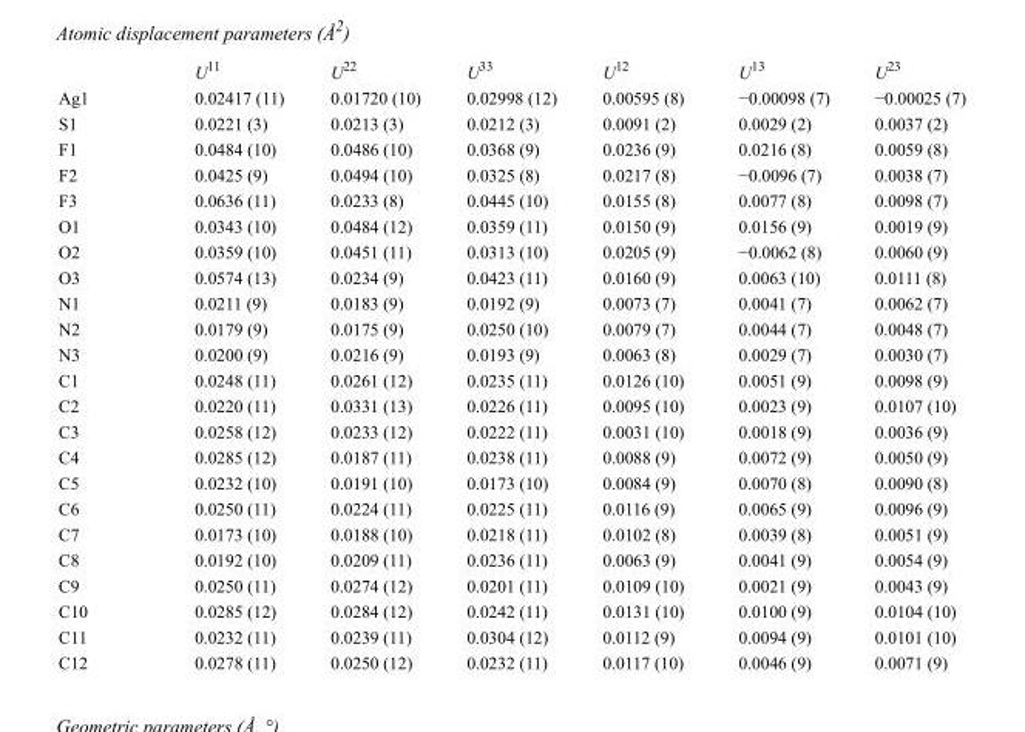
<table><thead><tr><td></td><td>U<sup>11</sup></td><td>U<sup>22</sup></td><td>U<sup>33</sup></td><td>U<sup>12</sup></td><td>U<sup>13</sup></td><td>U<sup>23</sup></td></tr></thead><tbody><tr><td>Ag1</td><td>0.02417 (11)</td><td>0.01720 (10)</td><td>0.02998 (12)</td><td>0.00595 (8)</td><td>−0.00098 (7)</td><td>−0.00025 (7)</td></tr><tr><td>S1</td><td>0.0221 (3)</td><td>0.0213 (3)</td><td>0.0212 (3)</td><td>0.0091 (2)</td><td>0.0029 (2)</td><td>0.0037 (2)</td></tr><tr><td>F1</td><td>0.0484 (10)</td><td>0.0486 (10)</td><td>0.0368 (9)</td><td>0.0236 (9)</td><td>0.0216 (8)</td><td>0.0059 (8)</td></tr><tr><td>F2</td><td>0.0425 (9)</td><td>0.0494 (10)</td><td>0.0325 (8)</td><td>0.0217 (8)</td><td>−0.0096 (7)</td><td>0.0038 (7)</td></tr><tr><td>F3</td><td>0.0636 (11)</td><td>0.0233 (8)</td><td>0.0445 (10)</td><td>0.0155 (8)</td><td>0.0077 (8)</td><td>0.0098 (7)</td></tr><tr><td>O1</td><td>0.0343 (10)</td><td>0.0484 (12)</td><td>0.0359 (11)</td><td>0.0150 (9)</td><td>0.0156 (9)</td><td>0.0019 (9)</td></tr><tr><td>O2</td><td>0.0359 (10)</td><td>0.0451 (11)</td><td>0.0313 (10)</td><td>0.0205 (9)</td><td>−0.0062 (8)</td><td>0.0060 (9)</td></tr><tr><td>O3</td><td>0.0574 (13)</td><td>0.0234 (9)</td><td>0.0423 (11)</td><td>0.0160 (9)</td><td>0.0063 (10)</td><td>0.0111 (8)</td></tr><tr><td>N1</td><td>0.0211 (9)</td><td>0.0183 (9)</td><td>0.0192 (9)</td><td>0.0073 (7)</td><td>0.0041 (7)</td><td>0.0062 (7)</td></tr><tr><td>N2</td><td>0.0179 (9)</td><td>0.0175 (9)</td><td>0.0250 (10)</td><td>0.0079 (7)</td><td>0.0044 (7)</td><td>0.0048 (7)</td></tr><tr><td>N3</td><td>0.0200 (9)</td><td>0.0216 (9)</td><td>0.0193 (9)</td><td>0.0063 (8)</td><td>0.0029 (7)</td><td>0.0030 (7)</td></tr><tr><td>C1</td><td>0.0248 (11)</td><td>0.0261 (12)</td><td>0.0235 (11)</td><td>0.0126 (10)</td><td>0.0051 (9)</td><td>0.0098 (9)</td></tr><tr><td>C2</td><td>0.0220 (11)</td><td>0.0331 (13)</td><td>0.0226 (11)</td><td>0.0095 (10)</td><td>0.0023 (9)</td><td>0.0107 (10)</td></tr><tr><td>C3</td><td>0.0258 (12)</td><td>0.0233 (12)</td><td>0.0222 (11)</td><td>0.0031 (10)</td><td>0.0018 (9)</td><td>0.0036 (9)</td></tr><tr><td>C4</td><td>0.0285 (12)</td><td>0.0187 (11)</td><td>0.0238 (11)</td><td>0.0088 (9)</td><td>0.0072 (9)</td><td>0.0050 (9)</td></tr><tr><td>C5</td><td>0.0232 (10)</td><td>0.0191 (10)</td><td>0.0173 (10)</td><td>0.0084 (9)</td><td>0.0070 (8)</td><td>0.0090 (8)</td></tr><tr><td>C6</td><td>0.0250 (11)</td><td>0.0224 (11)</td><td>0.0225 (11)</td><td>0.0116 (9)</td><td>0.0065 (9)</td><td>0.0096 (9)</td></tr><tr><td>C7</td><td>0.0173 (10)</td><td>0.0188 (10)</td><td>0.0218 (11)</td><td>0.0102 (8)</td><td>0.0039 (8)</td><td>0.0051 (9)</td></tr><tr><td>C8</td><td>0.0192 (10)</td><td>0.0209 (11)</td><td>0.0236 (11)</td><td>0.0063 (9)</td><td>0.0041 (9)</td><td>0.0054 (9)</td></tr><tr><td>C9</td><td>0.0250 (11)</td><td>0.0274 (12)</td><td>0.0201 (11)</td><td>0.0109 (10)</td><td>0.0021 (9)</td><td>0.0043 (9)</td></tr><tr><td>C10</td><td>0.0285 (12)</td><td>0.0284 (12)</td><td>0.0242 (11)</td><td>0.0131 (10)</td><td>0.0100 (9)</td><td>0.0104 (10)</td></tr><tr><td>C11</td><td>0.0232 (11)</td><td>0.0239 (11)</td><td>0.0304 (12)</td><td>0.0112 (9)</td><td>0.0094 (9)</td><td>0.0101 (10)</td></tr><tr><td>C12</td><td>0.0278 (11)</td><td>0.0250 (12)</td><td>0.0232 (11)</td><td>0.0117 (10)</td><td>0.0046 (9)</td><td>0.0071 (9)</td></tr></tbody></table>